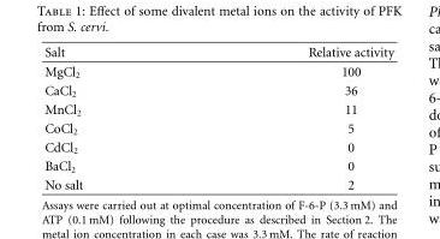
<table><thead><tr><td>Salt</td><td>Relative activity</td></tr></thead><tbody><tr><td>MgCl<sub>2</sub></td><td>100</td></tr><tr><td>CaCl<sub>2</sub></td><td>36</td></tr><tr><td>MnCl<sub>2</sub></td><td>11</td></tr><tr><td>CoCl<sub>2</sub></td><td>5</td></tr><tr><td>CdCl<sub>2</sub></td><td>0</td></tr><tr><td>BaCl<sub>2</sub></td><td>0</td></tr><tr><td>No salt</td><td>2</td></tr></tbody></table>